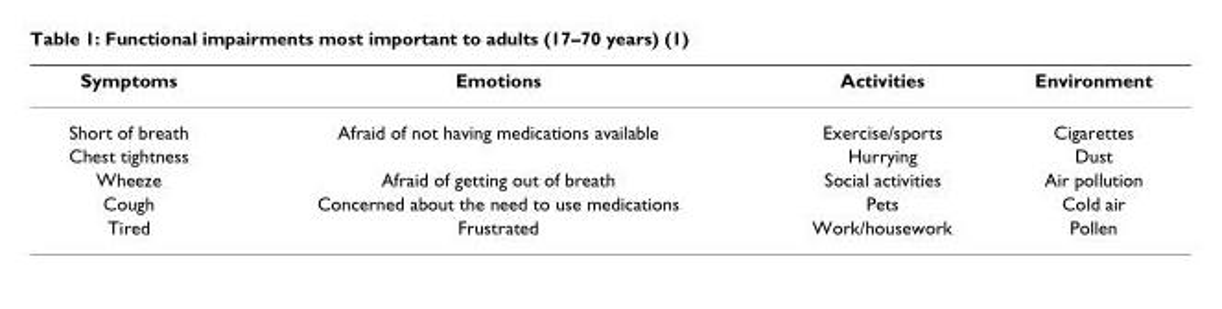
<table><thead><tr><td>Symptoms</td><td>Emotions</td><td>Activities</td><td>Environment</td></tr></thead><tbody><tr><td>Short of breath</td><td>Afraid of not having medications available</td><td>Exercise/sports</td><td>Cigarettes</td></tr><tr><td>Chest tightness</td><td></td><td>Hurrying</td><td>Dust</td></tr><tr><td>Wheeze</td><td>Afraid of getting out of breath</td><td>Social activities</td><td>Air pollution</td></tr><tr><td>Cough</td><td>Concerned about the need to use medications</td><td>Pets</td><td>Cold air</td></tr><tr><td>Tired</td><td>Frustrated</td><td>Work/housework</td><td>Pollen</td></tr></tbody></table>